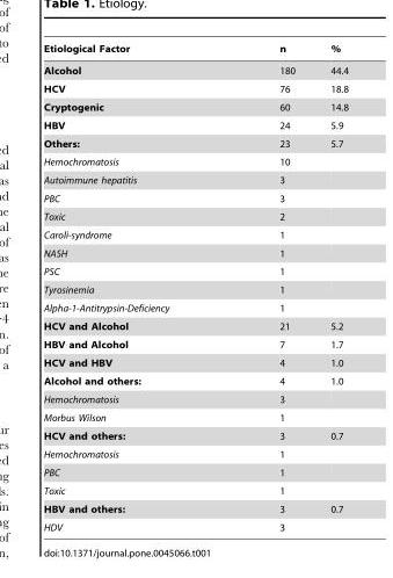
<table><thead><tr><td>Etiological Factor</td><td>n</td><td>%</td></tr></thead><tbody><tr><td>Alcohol</td><td>180</td><td>44.4</td></tr><tr><td>HCV</td><td>76</td><td>18.8</td></tr><tr><td>Cryptogenic</td><td>60</td><td>14.8</td></tr><tr><td>HBV</td><td>24</td><td>5.9</td></tr><tr><td>Others:</td><td>23</td><td>5.7</td></tr><tr><td>Hemochromatosis</td><td>10</td><td></td></tr><tr><td>Autoimmune hepatitis</td><td>3</td><td></td></tr><tr><td>PBC</td><td>3</td><td></td></tr><tr><td>Toxic</td><td>2</td><td></td></tr><tr><td>Caroli-syndrome</td><td>1</td><td></td></tr><tr><td>NASH</td><td>1</td><td></td></tr><tr><td>PSC</td><td>1</td><td></td></tr><tr><td>Tyrosinemia</td><td>1</td><td></td></tr><tr><td>Alpha-1-Antitrypsin-Deficiency</td><td>1</td><td></td></tr><tr><td>HCV and Alcohol</td><td>21</td><td>5.2</td></tr><tr><td>HBV and Alcohol</td><td>7</td><td>1.7</td></tr><tr><td>HCV and HBV</td><td>4</td><td>1.0</td></tr><tr><td>Alcohol and others:</td><td>4</td><td>1.0</td></tr><tr><td>Hemochromatosis</td><td>3</td><td></td></tr><tr><td>Morbus Wilson</td><td>1</td><td></td></tr><tr><td>HCV and others:</td><td>3</td><td>0.7</td></tr><tr><td>Hemochromatosis</td><td>1</td><td></td></tr><tr><td>PBC</td><td>1</td><td></td></tr><tr><td>Toxic</td><td>1</td><td></td></tr><tr><td>HBV and others:</td><td>3</td><td>0.7</td></tr><tr><td>HDV</td><td>3</td><td></td></tr></tbody></table>